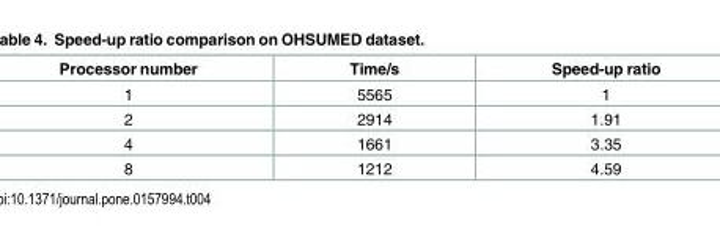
<table><thead><tr><td>Processor number</td><td>Time/s</td><td>Speed-up ratio</td></tr></thead><tbody><tr><td>1</td><td>5565</td><td>1</td></tr><tr><td>2</td><td>2914</td><td>1.91</td></tr><tr><td>4</td><td>1661</td><td>3.35</td></tr><tr><td>8</td><td>1212</td><td>4.59</td></tr></tbody></table>